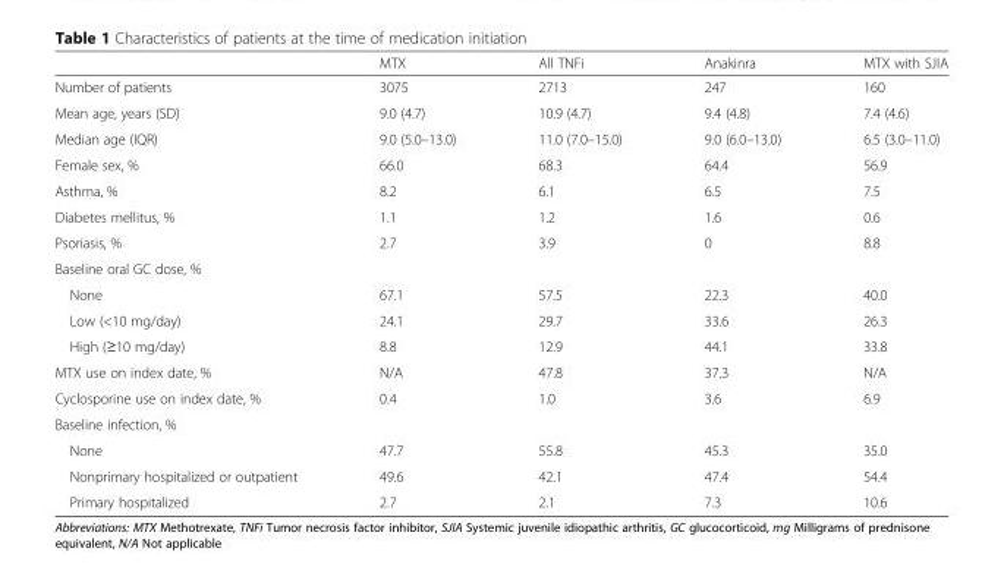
<table><thead><tr><td></td><td>MTX</td><td>All TNFi</td><td>Anakinra</td><td>MTX with SJIA</td></tr></thead><tbody><tr><td>Number of patients</td><td>3075</td><td>2713</td><td>247</td><td>160</td></tr><tr><td>Mean age, years (SD)</td><td>9.0 (4.7)</td><td>10.9 (4.7)</td><td>9.4 (4.8)</td><td>7.4 (4.6)</td></tr><tr><td>Median age (IQR)</td><td>9.0 (5.0–13.0)</td><td>11.0 (7.0–15.0)</td><td>9.0 (6.0–13.0)</td><td>6.5 (3.0–11.0)</td></tr><tr><td>Female sex, %</td><td>66.0</td><td>68.3</td><td>64.4</td><td>56.9</td></tr><tr><td>Asthma, %</td><td>8.2</td><td>6.1</td><td>6.5</td><td>7.5</td></tr><tr><td>Diabetes mellitus, %</td><td>1.1</td><td>1.2</td><td>1.6</td><td>0.6</td></tr><tr><td>Psoriasis, %</td><td>2.7</td><td>3.9</td><td>0</td><td>8.8</td></tr><tr><td colspan="5">Baseline oral GC dose, %</td></tr><tr><td>None</td><td>67.1</td><td>57.5</td><td>22.3</td><td>40.0</td></tr><tr><td>Low (&lt;10 mg/day)</td><td>24.1</td><td>29.7</td><td>33.6</td><td>26.3</td></tr><tr><td>High (≥10 mg/day)</td><td>8.8</td><td>12.9</td><td>44.1</td><td>33.8</td></tr><tr><td>MTX use on index date, %</td><td>N/A</td><td>47.8</td><td>37.3</td><td>N/A</td></tr><tr><td>Cyclosporine use on index date, %</td><td>0.4</td><td>1.0</td><td>3.6</td><td>6.9</td></tr><tr><td colspan="5">Baseline infection, %</td></tr><tr><td>None</td><td>47.7</td><td>55.8</td><td>45.3</td><td>35.0</td></tr><tr><td>Nonprimary hospitalized or outpatient</td><td>49.6</td><td>42.1</td><td>47.4</td><td>54.4</td></tr><tr><td>Primary hospitalized</td><td>2.7</td><td>2.1</td><td>7.3</td><td>10.6</td></tr></tbody></table>